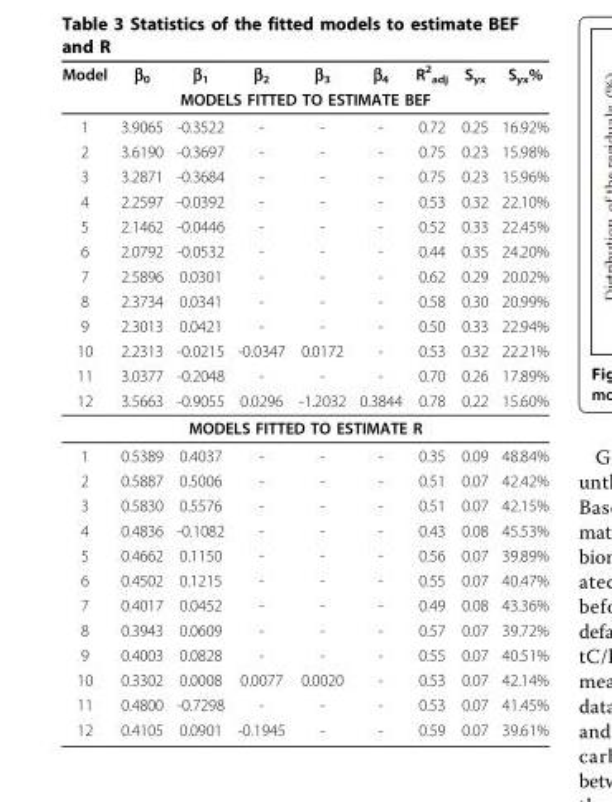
<table><thead><tr><td>Model</td><td>β<sub>0</sub></td><td>β<sub>1</sub></td><td>β<sub>2</sub></td><td>β<sub>3</sub></td><td>β<sub>4</sub></td><td>R<sup>2</sup> <sub>adj</sub></td><td>S<sub>yx</sub></td><td>S<sub>yx</sub>%</td></tr><tr><td colspan="9">MODELS FITTED TO ESTIMATE BEF</td></tr></thead><tbody><tr><td>1</td><td>3.9065</td><td>-0.3522</td><td>-</td><td>-</td><td>-</td><td>0.72</td><td>0.25</td><td>16.92%</td></tr><tr><td>2</td><td>3.6190</td><td>-0.3697</td><td>-</td><td>-</td><td>-</td><td>0.75</td><td>0.23</td><td>15.98%</td></tr><tr><td>3</td><td>3.2871</td><td>-0.3684</td><td>-</td><td>-</td><td>-</td><td>0.75</td><td>0.23</td><td>15.96%</td></tr><tr><td>4</td><td>2.2597</td><td>-0.0392</td><td>-</td><td>-</td><td>-</td><td>0.53</td><td>0.32</td><td>22.10%</td></tr><tr><td>5</td><td>2.1462</td><td>-0.0446</td><td>-</td><td>-</td><td>-</td><td>0.52</td><td>0.33</td><td>22.45%</td></tr><tr><td>6</td><td>2.0792</td><td>-0.0532</td><td>-</td><td>-</td><td>-</td><td>0.44</td><td>0.35</td><td>24.20%</td></tr><tr><td>7</td><td>2.5896</td><td>0.0301</td><td>-</td><td>-</td><td>-</td><td>0.62</td><td>0.29</td><td>20.02%</td></tr><tr><td>8</td><td>2.3734</td><td>0.0341</td><td>-</td><td>-</td><td>-</td><td>0.58</td><td>0.30</td><td>20.99%</td></tr><tr><td>9</td><td>2.3013</td><td>0.0421</td><td>-</td><td>-</td><td>-</td><td>0.50</td><td>0.33</td><td>22.94%</td></tr><tr><td>10</td><td>2.2313</td><td>-0.0215</td><td>-0.0347</td><td>0.0172</td><td>-</td><td>0.53</td><td>0.32</td><td>22.21%</td></tr><tr><td>11</td><td>3.0377</td><td>-0.2048</td><td>-</td><td>-</td><td>-</td><td>0.70</td><td>0.26</td><td>17.89%</td></tr><tr><td>12</td><td>3.5663</td><td>-0.9055</td><td>0.0296</td><td>-1.2032</td><td>0.3844</td><td>0.78</td><td>0.22</td><td>15.60%</td></tr><tr><td colspan="9">MODELS FITTED TO ESTIMATE R</td></tr><tr><td>1</td><td>0.5389</td><td>0.4037</td><td>-</td><td>-</td><td>-</td><td>0.35</td><td>0.09</td><td>48.84%</td></tr><tr><td>2</td><td>0.5887</td><td>0.5006</td><td>-</td><td>-</td><td>-</td><td>0.51</td><td>0.07</td><td>42.42%</td></tr><tr><td>3</td><td>0.5830</td><td>0.5576</td><td>-</td><td>-</td><td>-</td><td>0.51</td><td>0.07</td><td>42.15%</td></tr><tr><td>4</td><td>0.4836</td><td>-0.1082</td><td>-</td><td>-</td><td>-</td><td>0.43</td><td>0.08</td><td>45.53%</td></tr><tr><td>5</td><td>0.4662</td><td>0.1150</td><td>-</td><td>-</td><td>-</td><td>0.56</td><td>0.07</td><td>39.89%</td></tr><tr><td>6</td><td>0.4502</td><td>0.1215</td><td>-</td><td>-</td><td>-</td><td>0.55</td><td>0.07</td><td>40.47%</td></tr><tr><td>7</td><td>0.4017</td><td>0.0452</td><td>-</td><td>-</td><td>-</td><td>0.49</td><td>0.08</td><td>43.36%</td></tr><tr><td>8</td><td>0.3943</td><td>0.0609</td><td>-</td><td>-</td><td>-</td><td>0.57</td><td>0.07</td><td>39.72%</td></tr><tr><td>9</td><td>0.4003</td><td>0.0828</td><td>-</td><td>-</td><td>-</td><td>0.55</td><td>0.07</td><td>40.51%</td></tr><tr><td>10</td><td>0.3302</td><td>0.0008</td><td>0.0077</td><td>0.0020</td><td>-</td><td>0.53</td><td>0.07</td><td>42.14%</td></tr><tr><td>11</td><td>0.4800</td><td>-0.7298</td><td>-</td><td>-</td><td>-</td><td>0.53</td><td>0.07</td><td>41.45%</td></tr><tr><td>12</td><td>0.4105</td><td>0.0901</td><td>-0.1945</td><td>-</td><td>-</td><td>0.59</td><td>0.07</td><td>39.61%</td></tr></tbody></table>